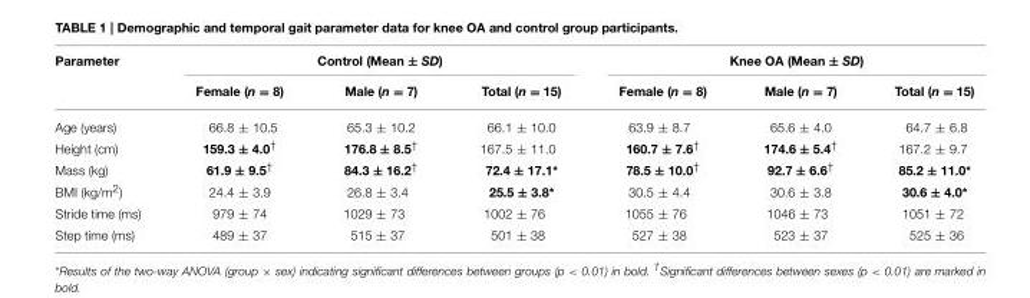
<table><thead><tr><td rowspan="2">Parameter</td><td colspan="3">Control (Mean ± SD)</td><td colspan="3">Knee OA (Mean ± SD)</td></tr><tr><td>Female (n = 8)</td><td>Male (n = 7)</td><td>Total (n = 15)</td><td>Female (n = 8)</td><td>Male (n = 7)</td><td>Total (n = 15)</td></tr></thead><tbody><tr><td>Age (years)</td><td>66.8 ± 10.5</td><td>65.3 ± 10.2</td><td>66.1 ± 10.0</td><td>63.9 ± 8.7</td><td>65.6 ± 4.0</td><td>64.7 ± 6.8</td></tr><tr><td>Height (cm)</td><td>159.3 ± 4.0<sup>†</sup></td><td>176.8 ± 8.5<sup>†</sup></td><td>167.5 ± 11.0</td><td>160.7 ± 7.6<sup>†</sup></td><td>174.6 ± 5.4<sup>†</sup></td><td>167.2 ± 9.7</td></tr><tr><td>Mass (kg)</td><td>61.9 ± 9.5<sup>†</sup></td><td>84.3 ± 16.2<sup>†</sup></td><td>72.4 ± 17.1*</td><td>78.5 ± 10.0<sup>†</sup></td><td>92.7 ± 6.6<sup>†</sup></td><td>85.2 ± 11.0*</td></tr><tr><td>BMI (kg/m<sup>2</sup>)</td><td>24.4 ± 3.9</td><td>26.8 ± 3.4</td><td>25.5 ± 3.8*</td><td>30.5 ± 4.4</td><td>30.6 ± 3.8</td><td>30.6 ± 4.0*</td></tr><tr><td>Stride time (ms)</td><td>979 ± 74</td><td>1029 ± 73</td><td>1002 ± 76</td><td>1055 ± 76</td><td>1046 ± 73</td><td>1051 ± 72</td></tr><tr><td>Step time (ms)</td><td>489 ± 37</td><td>515 ± 37</td><td>501 ± 38</td><td>527 ± 38</td><td>523 ± 37</td><td>525 ± 36</td></tr></tbody></table>